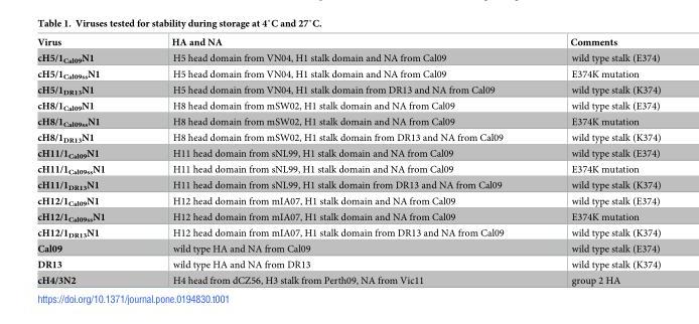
<table><thead><tr><td>Virus</td><td>HA and NA</td><td>Comments</td></tr></thead><tbody><tr><td>cH5/1<sub>Cal09</sub>N1</td><td>H5 head domain from VN04, H1 stalk domain and NA from Cal09</td><td>wild type stalk (E374)</td></tr><tr><td>cH5/1<sub>Cal09ss</sub>N1</td><td>H5 head domain from VN04, H1 stalk domain and NA from Cal09</td><td>E374K mutation</td></tr><tr><td>cH5/1<sub>DR13</sub>N1</td><td>H5 head domain from VN04, H1 stalk domain from DR13 and NA from Cal09</td><td>wild type stalk (K374)</td></tr><tr><td>cH8/1<sub>Cal09</sub>N1</td><td>H8 head domain from mSW02, H1 stalk domain and NA from Cal09</td><td>wild type stalk (E374)</td></tr><tr><td>cH8/1<sub>Cal09ss</sub>N1</td><td>H8 head domain from mSW02, H1 stalk domain and NA from Cal09</td><td>E374K mutation</td></tr><tr><td>cH8/1<sub>DR13</sub>N1</td><td>H8 head domain from mSW02, H1 stalk domain from DR13 and NA from Cal09</td><td>wild type stalk (K374)</td></tr><tr><td>cH11/1<sub>Cal09</sub>N1</td><td>H11 head domain from sNL99, H1 stalk domain and NA from Cal09</td><td>wild type stalk (E374)</td></tr><tr><td>cH11/1<sub>Cal09ss</sub>N1</td><td>H11 head domain from sNL99, H1 stalk domain and NA from Cal09</td><td>E374K mutation</td></tr><tr><td>cH11/1<sub>DR13</sub>N1</td><td>H11 head domain from sNL99, H1 stalk domain from DR13 and NA from Cal09</td><td>wild type stalk (K374)</td></tr><tr><td>cH12/1<sub>Cal09</sub>N1</td><td>H12 head domain from mIA07, H1 stalk domain and NA from Cal09</td><td>wild type stalk (E374)</td></tr><tr><td>cH12/1<sub>Cal09ss</sub>N1</td><td>H12 head domain from mIA07, H1 stalk domain and NA from Cal09</td><td>E374K mutation</td></tr><tr><td>cH12/1<sub>DR13</sub>N1</td><td>H12 head domain from mIA07, H1 stalk domain from DR13 and NA from Cal09</td><td>wild type stalk (K374)</td></tr><tr><td>Cal09</td><td>wild type HA and NA from Cal09</td><td>wild type stalk (E374)</td></tr><tr><td>DR13</td><td>wild type HA and NA from DR13</td><td>wild type stalk (K374)</td></tr><tr><td>cH4/3N2</td><td>H4 head from dCZ56, H3 stalk from Perth09, NA from Vic11</td><td>group 2 HA</td></tr></tbody></table>